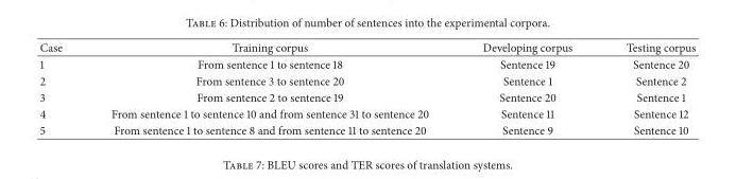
<table><thead><tr><td>Case</td><td>Training corpus</td><td>Developing corpus</td><td>Testing corpus</td></tr></thead><tbody><tr><td>1</td><td>From sentence 1 to sentence 18</td><td>Sentence 19</td><td>Sentence 20</td></tr><tr><td>2</td><td>From sentence 3 to sentence 20</td><td>Sentence 1</td><td>Sentence 2</td></tr><tr><td>3</td><td>From sentence 2 to sentence 19</td><td>Sentence 20</td><td>Sentence 1</td></tr><tr><td>4</td><td>From sentence 1 to sentence 10 and from sentence 31 to sentence 20</td><td>Sentence 11</td><td>Sentence 12</td></tr><tr><td>5</td><td>From sentence 1 to sentence 8 and from sentence 11 to sentence 20</td><td>Sentence 9</td><td>Sentence 10</td></tr></tbody></table>